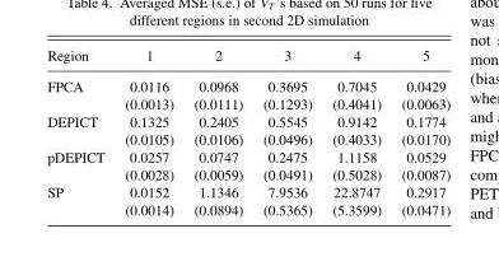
<table><thead><tr><td>Region</td><td>1</td><td>2</td><td>3</td><td>4</td><td>5</td></tr></thead><tbody><tr><td rowspan="2">FPCA</td><td>0.0116</td><td>0.0968</td><td>0.3695</td><td>0.7045</td><td>0.0429</td></tr><tr><td>(0.0013)</td><td>(0.0111)</td><td>(0.1293)</td><td>(0.4041)</td><td>(0.0063)</td></tr><tr><td rowspan="2">DEPICT</td><td>0.1325</td><td>0.2405</td><td>0.5545</td><td>0.9142</td><td>0.1774</td></tr><tr><td>(0.0105)</td><td>(0.0106)</td><td>(0.0496)</td><td>(0.4033)</td><td>(0.0170)</td></tr><tr><td rowspan="2">pDEPICT</td><td>0.0257</td><td>0.0747</td><td>0.2475</td><td>1.1158</td><td>0.0529</td></tr><tr><td>(0.0028)</td><td>(0.0059)</td><td>(0.0491)</td><td>(0.5028)</td><td>(0.0087)</td></tr><tr><td rowspan="2">SP</td><td>0.0152</td><td>1.1346</td><td>7.9536</td><td>22.8747</td><td>0.2917</td></tr><tr><td>(0.0014)</td><td>(0.0894)</td><td>(0.5365)</td><td>(5.3599)</td><td>(0.0471)</td></tr></tbody></table>